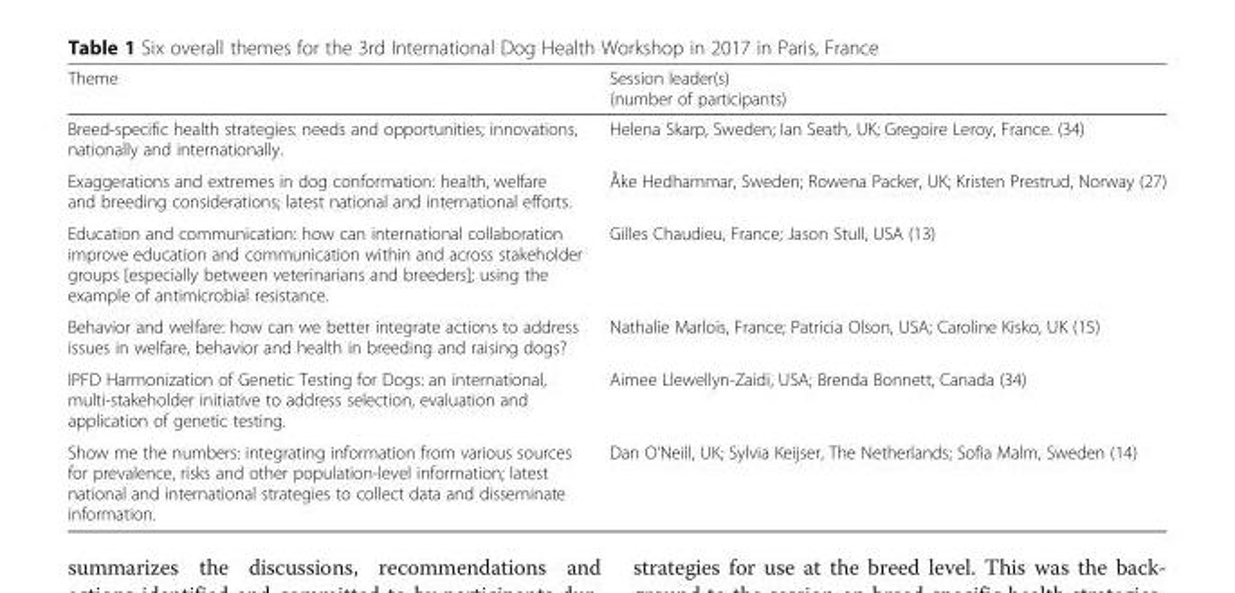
<table><thead><tr><td>Theme</td><td>Session leader(s) (number of participants)</td></tr></thead><tbody><tr><td>Breed-specific health strategies: needs and opportunities; innovations, nationally and internationally.</td><td>Helena Skarp, Sweden; Ian Seath, UK; Gregoire Leroy, France. (34)</td></tr><tr><td>Exaggerations and extremes in dog conformation: health, welfare and breeding considerations; latest national and international efforts.</td><td>Åke Hedhammar, Sweden; Rowena Packer, UK; Kristen Prestrud, Norway (27)</td></tr><tr><td>Education and communication: how can international collaboration improve education and communication within and across stakeholder groups [especially between veterinarians and breeders]; using the example of antimicrobial resistance.</td><td>Gilles Chaudieu, France; Jason Stull, USA (13)</td></tr><tr><td>Behavior and welfare: how can we better integrate actions to address issues in welfare, behavior and health in breeding and raising dogs?</td><td>Nathalie Marlois, France; Patricia Olson, USA; Caroline Kisko, UK (15)</td></tr><tr><td>IPFD Harmonization of Genetic Testing for Dogs: an international, multi-stakeholder initiative to address selection, evaluation and application of genetic testing.</td><td>Aimee Llewellyn-Zaidi, USA; Brenda Bonnett, Canada (34)</td></tr><tr><td>Show me the numbers: integrating information from various sources for prevalence, risks and other population-level information; latest national and international strategies to collect data and disseminate information.</td><td>Dan O’Neill, UK; Sylvia Keijser, The Netherlands; Sofia Malm, Sweden (14)</td></tr></tbody></table>